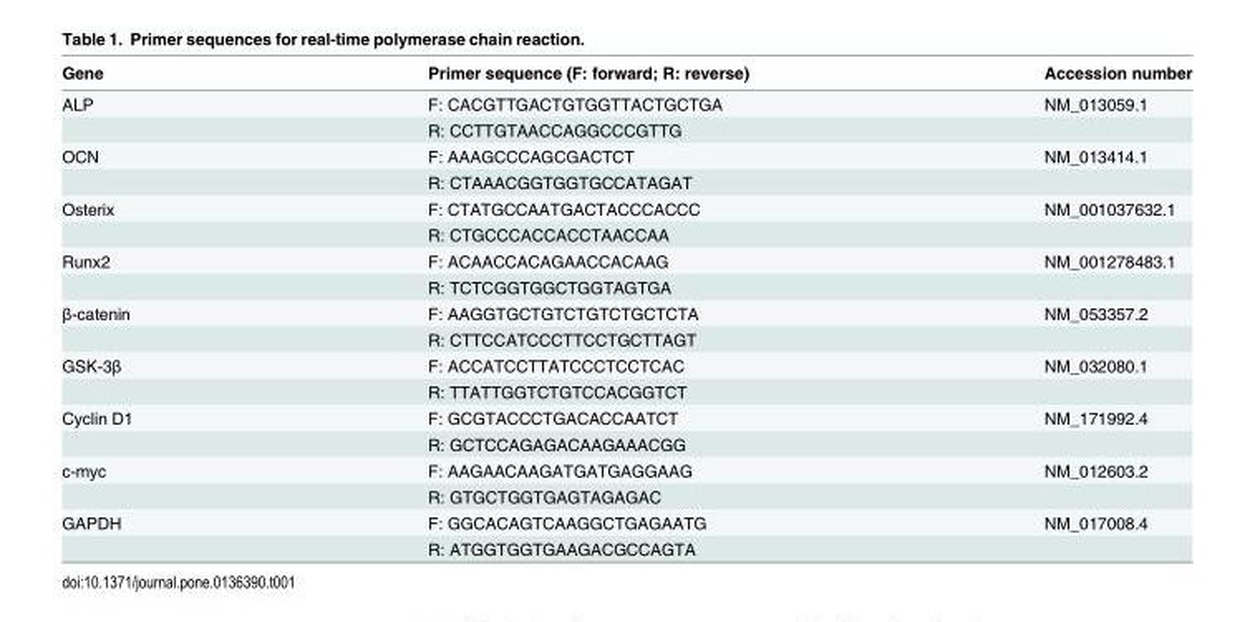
<table><thead><tr><td>Gene</td><td>Primer sequence (F: forward; R: reverse)</td><td>Accession number</td></tr></thead><tbody><tr><td rowspan="2">ALP</td><td>F: CACGTTGACTGTGGTTACTGCTGA</td><td>NM_013059.1</td></tr><tr><td>R: CCTTGTAACCAGGCCCGTTG</td><td></td></tr><tr><td rowspan="2">OCN</td><td>F: AAAGCCCAGCGACTCT</td><td>NM_013414.1</td></tr><tr><td>R: CTAAACGGTGGTGCCATAGAT</td><td></td></tr><tr><td rowspan="2">Osterix</td><td>F: CTATGCCAATGACTACCCACCC</td><td>NM_001037632.1</td></tr><tr><td>R: CTGCCCACCACCTAACCAA</td><td></td></tr><tr><td rowspan="2">Runx2</td><td>F: ACAACCACAGAACCACAAG</td><td>NM_001278483.1</td></tr><tr><td>R: TCTCGGTGGCTGGTAGTGA</td><td></td></tr><tr><td rowspan="2">β-catenin</td><td>F: AAGGTGCTGTCTGTCTGCTCTA</td><td>NM_053357.2</td></tr><tr><td>R: CTTCCATCCCTTCCTGCTTAGT</td><td></td></tr><tr><td rowspan="2">GSK-3β</td><td>F: ACCATCCTTATCCCTCCTCAC</td><td>NM_032080.1</td></tr><tr><td>R: TTATTGGTCTGTCCACGGTCT</td><td></td></tr><tr><td rowspan="2">Cyclin D1</td><td>F: GCGTACCCTGACACCAATCT</td><td>NM_171992.4</td></tr><tr><td>R: GCTCCAGAGACAAGAAACGG</td><td></td></tr><tr><td rowspan="2">c-myc</td><td>F: AAGAACAAGATGATGAGGAAG</td><td>NM_012603.2</td></tr><tr><td>R: GTGCTGGTGAGTAGAGAC</td><td></td></tr><tr><td rowspan="2">GAPDH</td><td>F: GGCACAGTCAAGGCTGAGAATG</td><td>NM_017008.4</td></tr><tr><td>R: ATGGTGGTGAAGACGCCAGTA</td><td></td></tr></tbody></table>